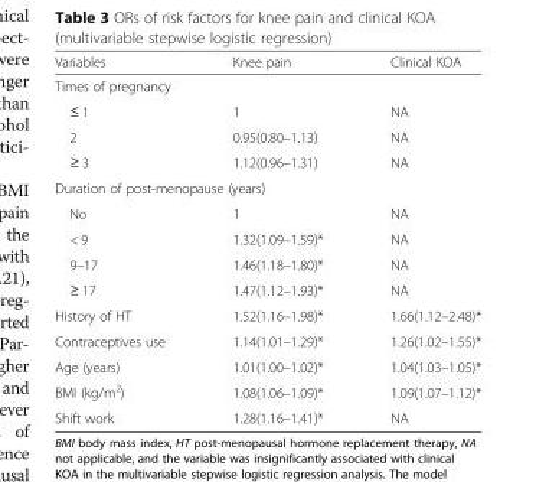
<table><thead><tr><td>Variables</td><td>Knee pain</td><td>Clinical KOA</td></tr></thead><tbody><tr><td colspan="3">Times of pregnancy</td></tr><tr><td>≤ 1</td><td>1</td><td>NA</td></tr><tr><td>2</td><td>0.95(0.80–1.13)</td><td>NA</td></tr><tr><td>≥ 3</td><td>1.12(0.96–1.31)</td><td>NA</td></tr><tr><td colspan="3">Duration of post-menopause (years)</td></tr><tr><td>No</td><td>1</td><td>NA</td></tr><tr><td>&lt; 9</td><td>1.32(1.09–1.59)*</td><td>NA</td></tr><tr><td>9–17</td><td>1.46(1.18–1.80)*</td><td>NA</td></tr><tr><td>≥ 17</td><td>1.47(1.12–1.93)*</td><td>NA</td></tr><tr><td>History of HT</td><td>1.52(1.16–1.98)*</td><td>1.66(1.12–2.48)*</td></tr><tr><td>Contraceptives use</td><td>1.14(1.01–1.29)*</td><td>1.26(1.02–1.55)*</td></tr><tr><td>Age (years)</td><td>1.01(1.00–1.02)*</td><td>1.04(1.03–1.05)*</td></tr><tr><td>BMI (kg/m<sup>2</sup>)</td><td>1.08(1.06–1.09)*</td><td>1.09(1.07–1.12)*</td></tr><tr><td>Shift work</td><td>1.28(1.16–1.41)*</td><td>NA</td></tr></tbody></table>